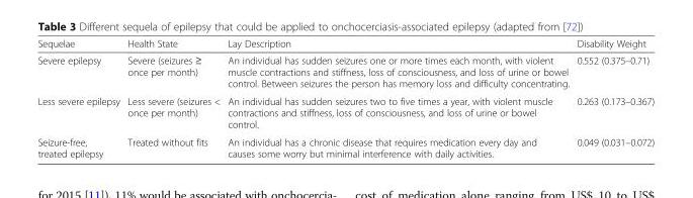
<table><thead><tr><td>Sequelae</td><td>Health State</td><td>Lay Description</td><td>Disability Weight</td></tr></thead><tbody><tr><td>Severe epilepsy</td><td>Severe (seizures ≥ once per month)</td><td>An individual has sudden seizures one or more times each month, with violent muscle contractions and stiffness, loss of consciousness, and loss of urine or bowel control. Between seizures the person has memory loss and difficulty concentrating.</td><td>0.552 (0.375–0.71)</td></tr><tr><td>Less severe epilepsy</td><td>Less severe (seizures &lt; once per month)</td><td>An individual has sudden seizures two to five times a year, with violent muscle contractions and stiffness, loss of consciousness, and loss of urine or bowel control.</td><td>0.263 (0.173–0.367)</td></tr><tr><td>Seizure-free, treated epilepsy</td><td>Treated without fits</td><td>An individual has a chronic disease that requires medication every day and causes some worry but minimal interference with daily activities.</td><td>0.049 (0.031–0.072)</td></tr></tbody></table>